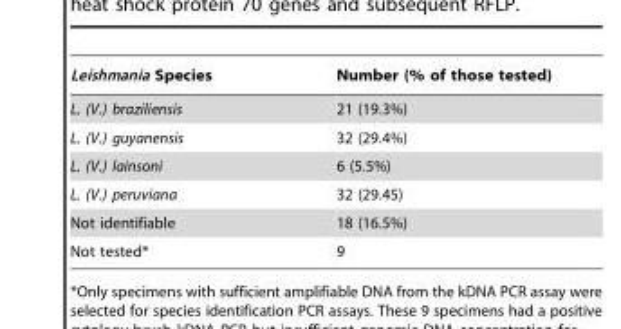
<table><thead><tr><td>Leishmania Species</td><td>Number (% of those tested)</td></tr></thead><tbody><tr><td>L. (V.) braziliensis</td><td>21 (19.3%)</td></tr><tr><td>L. (V.) guyanensis</td><td>32 (29.4%)</td></tr><tr><td>L. (V.) lainsoni</td><td>6 (5.5%)</td></tr><tr><td>L. (V.) peruviana</td><td>32 (29.45)</td></tr><tr><td>Not identifiable</td><td>18 (16.5%)</td></tr><tr><td>Not tested*</td><td>9</td></tr></tbody></table>